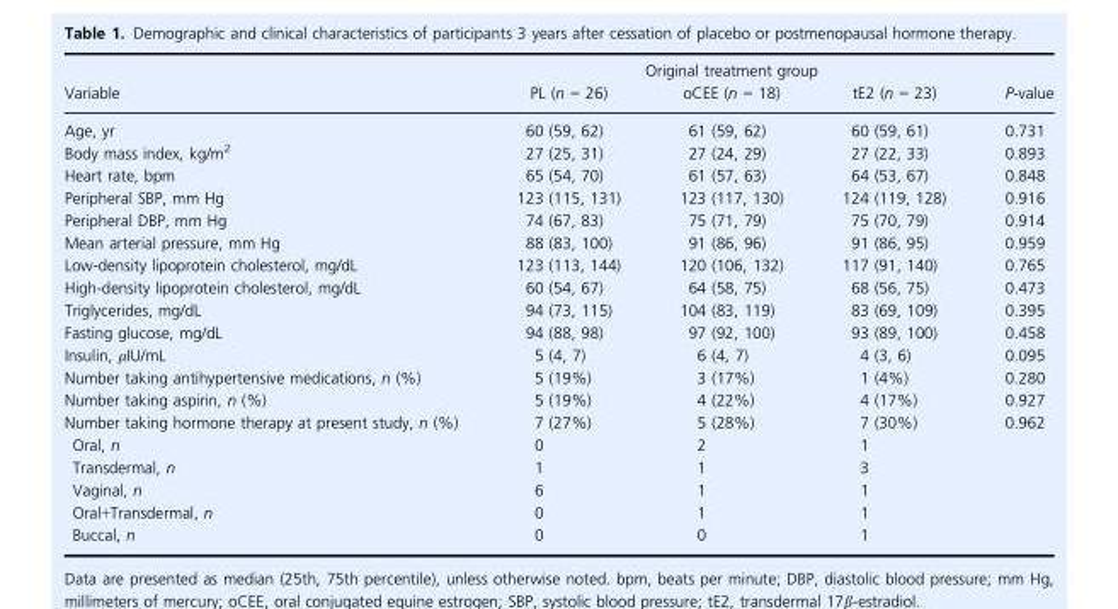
<table><thead><tr><td rowspan="2">Variable</td><td colspan="3">Original treatment group</td><td rowspan="2">P-value</td></tr><tr><td>PL (n = 26)</td><td>oCEE (n = 18)</td><td>tE2 (n = 23)</td></tr></thead><tbody><tr><td>Age, yr</td><td>60 (59, 62)</td><td>61 (59, 62)</td><td>60 (59, 61)</td><td>0.731</td></tr><tr><td>Body mass index, kg/m<sup>2</sup></td><td>27 (25, 31)</td><td>27 (24, 29)</td><td>27 (22, 33)</td><td>0.893</td></tr><tr><td>Heart rate, bpm</td><td>65 (54, 70)</td><td>61 (57, 63)</td><td>64 (53, 67)</td><td>0.848</td></tr><tr><td>Peripheral SBP, mm Hg</td><td>123 (115, 131)</td><td>123 (117, 130)</td><td>124 (119, 128)</td><td>0.916</td></tr><tr><td>Peripheral DBP, mm Hg</td><td>74 (67, 83)</td><td>75 (71, 79)</td><td>75 (70, 79)</td><td>0.914</td></tr><tr><td>Mean arterial pressure, mm Hg</td><td>88 (83, 100)</td><td>91 (86, 96)</td><td>91 (86, 95)</td><td>0.959</td></tr><tr><td>Low-density lipoprotein cholesterol, mg/dL</td><td>123 (113, 144)</td><td>120 (106, 132)</td><td>117 (91, 140)</td><td>0.765</td></tr><tr><td>High-density lipoprotein cholesterol, mg/dL</td><td>60 (54, 67)</td><td>64 (58, 75)</td><td>68 (56, 75)</td><td>0.473</td></tr><tr><td>Triglycerides, mg/dL</td><td>94 (73, 115)</td><td>104 (83, 119)</td><td>83 (69, 109)</td><td>0.395</td></tr><tr><td>Fasting glucose, mg/dL</td><td>94 (88, 98)</td><td>97 (92, 100)</td><td>93 (89, 100)</td><td>0.458</td></tr><tr><td>Insulin, μIU/mL</td><td>5 (4, 7)</td><td>6 (4, 7)</td><td>4 (3, 6)</td><td>0.095</td></tr><tr><td>Number taking antihypertensive medications, n (%)</td><td>5 (19%)</td><td>3 (17%)</td><td>1 (4%)</td><td>0.280</td></tr><tr><td>Number taking aspirin, n (%)</td><td>5 (19%)</td><td>4 (22%)</td><td>4 (17%)</td><td>0.927</td></tr><tr><td>Number taking hormone therapy at present study, n (%)</td><td>7 (27%)</td><td>5 (28%)</td><td>7 (30%)</td><td>0.962</td></tr><tr><td>Oral, n</td><td>0</td><td>2</td><td>1</td><td></td></tr><tr><td>Transdermal, n</td><td>1</td><td>1</td><td>3</td><td></td></tr><tr><td>Vaginal, n</td><td>6</td><td>1</td><td>1</td><td></td></tr><tr><td>Oral+Transdermal, n</td><td>0</td><td>1</td><td>1</td><td></td></tr><tr><td>Buccal, n</td><td>0</td><td>0</td><td>1</td><td></td></tr></tbody></table>